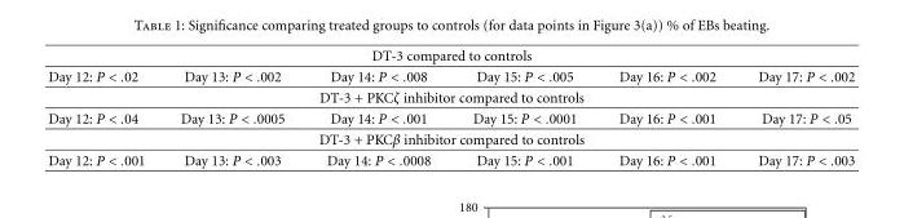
<table><thead><tr><td colspan="6">DT-3 compared to controls</td></tr><tr><td>Day 12: P &lt; .02</td><td>Day 13: P &lt; .002</td><td>Day 14: P &lt; .008</td><td>Day 15: P &lt; .005</td><td>Day 16: P &lt; .002</td><td>Day 17: P &lt; .002</td></tr></thead><tbody><tr><td colspan="6">DT-3 + PKCζ inhibitor compared to controls</td></tr><tr><td>Day 12: P &lt; .04</td><td>Day 13: P &lt; .0005</td><td>Day 14: P &lt; .001</td><td>Day 15: P &lt; .0001</td><td>Day 16: P &lt; .001</td><td>Day 17: P &lt; .05</td></tr><tr><td colspan="6">DT-3 + PKCβ inhibitor compared to controls</td></tr><tr><td>Day 12: P &lt; .001</td><td>Day 13: P &lt; .003</td><td>Day 14: P &lt; .0008</td><td>Day 15: P &lt; .001</td><td>Day 16: P &lt; .001</td><td>Day 17: P &lt; .003</td></tr></tbody></table>